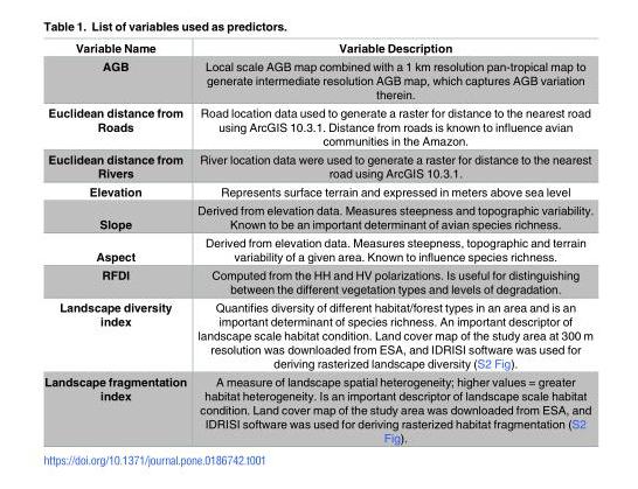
<table><thead><tr><td>Variable Name</td><td>Variable Description</td></tr></thead><tbody><tr><td>AGB</td><td>Local scale AGB map combined with a 1 km resolution pan-tropical map to generate intermediate resolution AGB map, which captures AGB variation therein.</td></tr><tr><td>Euclidean distance from Roads</td><td>Road location data used to generate a raster for distance to the nearest road using ArcGIS 10.3.1. Distance from roads is known to influence avian communities in the Amazon.</td></tr><tr><td>Euclidean distance from Rivers</td><td>River location data were used to generate a raster for distance to the nearest road using ArcGIS 10.3.1.</td></tr><tr><td>Elevation</td><td>Represents surface terrain and expressed in meters above sea level</td></tr><tr><td>Slope</td><td>Derived from elevation data. Measures steepness and topographic variability. Known to be an important determinant of avian species richness.</td></tr><tr><td>Aspect</td><td>Derived from elevation data. Measures steepness, topographic and terrain variability of a given area. Known to influence species richness.</td></tr><tr><td>RFDI</td><td>Computed from the HH and HV polarizations. Is useful for distinguishing between the different vegetation types and levels of degradation.</td></tr><tr><td>Landscape diversity index</td><td>Quantifies diversity of different habitat/forest types in an area and is an important determinant of species richness. An important descriptor of landscape scale habitat condition. Land cover map of the study area at 300 m resolution was downloaded from ESA, and IDRISI software was used for deriving rasterized landscape diversity (S2 Fig).</td></tr><tr><td>Landscape fragmentation index</td><td>A measure of landscape spatial heterogeneity; higher values = greater habitat heterogeneity. Is an important descriptor of landscape scale habitat condition. Land cover map of the study area was downloaded from ESA, and IDRISI software was used for deriving rasterized habitat fragmentation (S2 Fig).</td></tr></tbody></table>